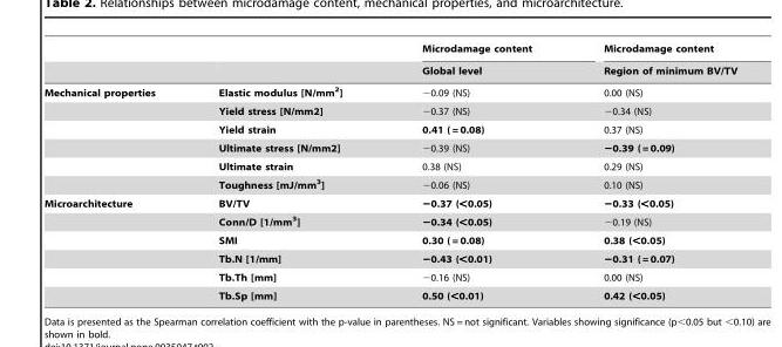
<table><thead><tr><td rowspan="2"></td><td rowspan="2"></td><td rowspan="2">Microdamage content Global level</td><td rowspan="2">Microdamage content Region of minimum BV/TV</td></tr><tr></tr></thead><tbody><tr><td rowspan="6">Mechanical properties</td><td>Elastic modulus [N/mm<sup>2</sup>]</td><td>−0.09 (NS)</td><td>0.00 (NS)</td></tr><tr><td>Yield stress [N/mm2]</td><td>−0.37 (NS)</td><td>−0.34 (NS)</td></tr><tr><td>Yield strain</td><td>0.41 ( = 0.08)</td><td>0.37 (NS)</td></tr><tr><td>Ultimate stress [N/mm2]</td><td>−0.39 (NS)</td><td>−0.39 ( = 0.09)</td></tr><tr><td>Ultimate strain</td><td>0.38 (NS)</td><td>0.29 (NS)</td></tr><tr><td>Toughness [mJ/mm<sup>3</sup>]</td><td>−0.06 (NS)</td><td>0.10 (NS)</td></tr><tr><td rowspan="6">Microarchitecture</td><td>BV/TV</td><td>−0.37 (&lt;0.05)</td><td>−0.33 (&lt;0.05)</td></tr><tr><td>Conn/D [1/mm<sup>3</sup>]</td><td>−0.34 (&lt;0.05)</td><td>−0.19 (NS)</td></tr><tr><td>SMI</td><td>0.30 ( = 0.08)</td><td>0.38 (&lt;0.05)</td></tr><tr><td>Tb.N [1/mm]</td><td>−0.43 (&lt;0.01)</td><td>−0.31 ( = 0.07)</td></tr><tr><td>Tb.Th [mm]</td><td>−0.16 (NS)</td><td>0.00 (NS)</td></tr><tr><td>Tb.Sp [mm]</td><td>0.50 (&lt;0.01)</td><td>0.42 (&lt;0.05)</td></tr></tbody></table>